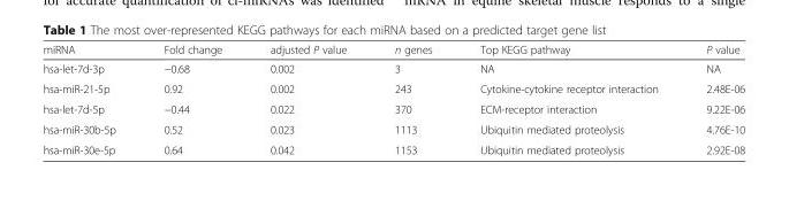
<table><thead><tr><td>miRNA</td><td>Fold change</td><td>adjusted P value</td><td>n genes</td><td>Top KEGG pathway</td><td>P value</td></tr></thead><tbody><tr><td>hsa-let-7d-3p</td><td>−0.68</td><td>0.002</td><td>3</td><td>NA</td><td>NA</td></tr><tr><td>hsa-miR-21-5p</td><td>0.92</td><td>0.002</td><td>243</td><td>Cytokine-cytokine receptor interaction</td><td>2.48E-06</td></tr><tr><td>hsa-let-7d-5p</td><td>−0.44</td><td>0.022</td><td>370</td><td>ECM-receptor interaction</td><td>9.22E-06</td></tr><tr><td>hsa-miR-30b-5p</td><td>0.52</td><td>0.023</td><td>1113</td><td>Ubiquitin mediated proteolysis</td><td>4.76E-10</td></tr><tr><td>hsa-miR-30e-5p</td><td>0.64</td><td>0.042</td><td>1153</td><td>Ubiquitin mediated proteolysis</td><td>2.92E-08</td></tr></tbody></table>